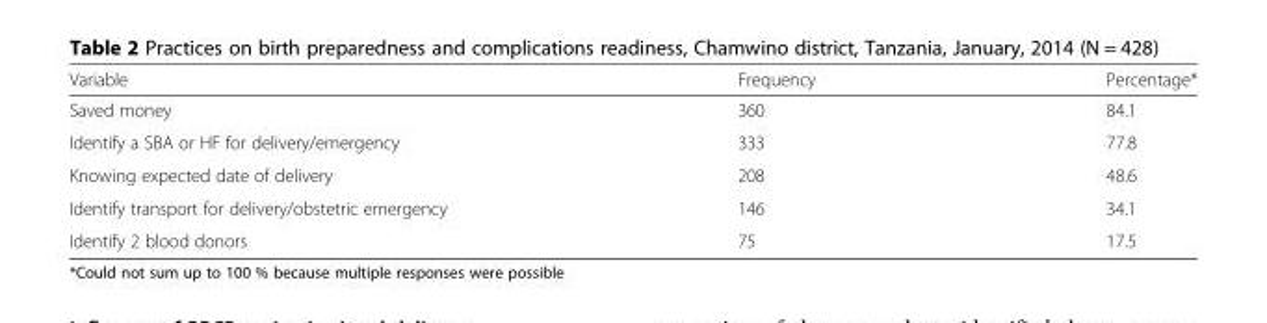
<table><thead><tr><td>Variable</td><td>Frequency</td><td>Percentage*</td></tr></thead><tbody><tr><td>Saved money</td><td>360</td><td>84.1</td></tr><tr><td>Identify a SBA or HF for delivery/emergency</td><td>333</td><td>77.8</td></tr><tr><td>Knowing expected date of delivery</td><td>208</td><td>48.6</td></tr><tr><td>Identify transport for delivery/obstetric emergency</td><td>146</td><td>34.1</td></tr><tr><td>Identify 2 blood donors</td><td>75</td><td>17.5</td></tr></tbody></table>